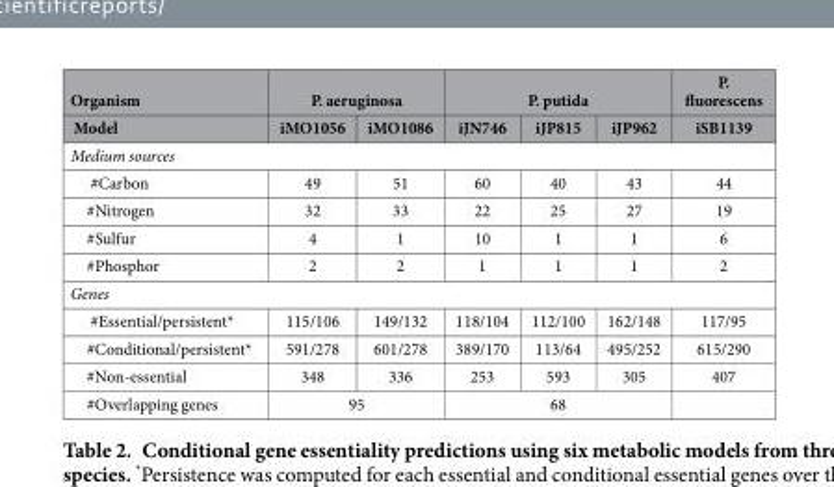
<table><thead><tr><td rowspan="2">Organism Model</td><td colspan="2">P. aeruginosa</td><td colspan="3">P. putida</td><td rowspan="2">P. fluorescens iSB1139</td></tr><tr><td>iMO1056</td><td>iMO1086</td><td>iJN746</td><td>iJP815</td><td>iJP962</td></tr></thead><tbody><tr><td colspan="7">Medium sources</td></tr><tr><td>#Carbon</td><td>49</td><td>51</td><td>60</td><td>40</td><td>43</td><td>44</td></tr><tr><td>#Nitrogen</td><td>32</td><td>33</td><td>22</td><td>25</td><td>27</td><td>19</td></tr><tr><td>#Sulfur</td><td>4</td><td>1</td><td>10</td><td>1</td><td>1</td><td>6</td></tr><tr><td>#Phosphor</td><td>2</td><td>2</td><td>1</td><td>1</td><td>1</td><td>2</td></tr><tr><td colspan="7">Genes</td></tr><tr><td>#Essential/persistent*</td><td>115/106</td><td>149/132</td><td>118/104</td><td>112/100</td><td>162/148</td><td>117/95</td></tr><tr><td>#Conditional/persistent*</td><td>591/278</td><td>601/278</td><td>389/170</td><td>113/64</td><td>495/252</td><td>615/290</td></tr><tr><td>#Non-essential</td><td>348</td><td>336</td><td>253</td><td>593</td><td>305</td><td>407</td></tr><tr><td>#Overlapping genes</td><td colspan="2">95</td><td colspan="3">68</td><td></td></tr></tbody></table>